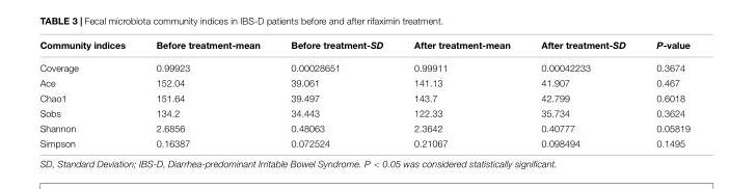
<table><thead><tr><td>Community indices</td><td>Before treatment-mean</td><td>Before treatment-SD</td><td>After treatment-mean</td><td>After treatment-SD</td><td>P-value</td></tr></thead><tbody><tr><td>Coverage</td><td>0.99923</td><td>0.00028651</td><td>0.99911</td><td>0.00042233</td><td>0.3674</td></tr><tr><td>Ace</td><td>152.04</td><td>39.061</td><td>141.13</td><td>41.907</td><td>0.467</td></tr><tr><td>Chao1</td><td>151.64</td><td>39.497</td><td>143.7</td><td>42.799</td><td>0.6018</td></tr><tr><td>Sobs</td><td>134.2</td><td>34.443</td><td>122.33</td><td>35.734</td><td>0.3624</td></tr><tr><td>Shannon</td><td>2.6856</td><td>0.48063</td><td>2.3642</td><td>0.40777</td><td>0.05819</td></tr><tr><td>Simpson</td><td>0.16387</td><td>0.072524</td><td>0.21067</td><td>0.098494</td><td>0.1495</td></tr></tbody></table>